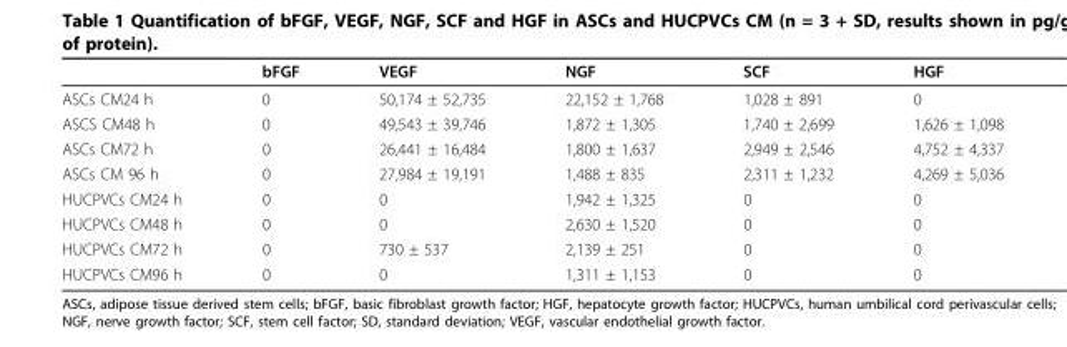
<table><thead><tr><td></td><td>bFGF</td><td>VEGF</td><td>NGF</td><td>SCF</td><td>HGF</td></tr></thead><tbody><tr><td>ASCs CM24 h</td><td>0</td><td>50,174 ± 52,735</td><td>22,152 ± 1,768</td><td>1,028 ± 891</td><td>0</td></tr><tr><td>ASCS CM48 h</td><td>0</td><td>49,543 ± 39,746</td><td>1,872 ± 1,305</td><td>1,740 ± 2,699</td><td>1,626 ± 1,098</td></tr><tr><td>ASCs CM72 h</td><td>0</td><td>26,441 ± 16,484</td><td>1,800 ± 1,637</td><td>2,949 ± 2,546</td><td>4,752 ± 4,337</td></tr><tr><td>ASCs CM 96 h</td><td>0</td><td>27,984 ± 19,191</td><td>1,488 ± 835</td><td>2,311 ± 1,232</td><td>4,269 ± 5,036</td></tr><tr><td>HUCPVCs CM24 h</td><td>0</td><td>0</td><td>1,942 ± 1,325</td><td>0</td><td>0</td></tr><tr><td>HUCPVCs CM48 h</td><td>0</td><td>0</td><td>2,630 ± 1,520</td><td>0</td><td>0</td></tr><tr><td>HUCPVCs CM72 h</td><td>0</td><td>730 ± 537</td><td>2,139 ± 251</td><td>0</td><td>0</td></tr><tr><td>HUCPVCs CM96 h</td><td>0</td><td>0</td><td>1,311 ± 1,153</td><td>0</td><td>0</td></tr></tbody></table>